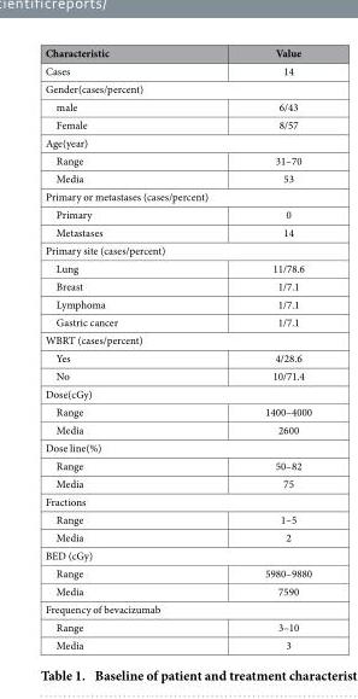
<table><thead><tr><td>Characteristic</td><td>Value</td></tr></thead><tbody><tr><td>Cases</td><td>14</td></tr><tr><td colspan="2">Gender(cases/percent)</td></tr><tr><td>male</td><td>6/43</td></tr><tr><td>Female</td><td>8/57</td></tr><tr><td colspan="2">Age(year)</td></tr><tr><td>Range</td><td>31–70</td></tr><tr><td>Media</td><td>53</td></tr><tr><td colspan="2">Primary or metastases (cases/percent)</td></tr><tr><td>Primary</td><td>0</td></tr><tr><td>Metastases</td><td>14</td></tr><tr><td colspan="2">Primary site (cases/percent)</td></tr><tr><td>Lung</td><td>11/78.6</td></tr><tr><td>Breast</td><td>1/7.1</td></tr><tr><td>Lymphoma</td><td>1/7.1</td></tr><tr><td>Gastric cancer</td><td>1/7.1</td></tr><tr><td colspan="2">WBRT (cases/percent)</td></tr><tr><td>Yes</td><td>4/28.6</td></tr><tr><td>No</td><td>10/71.4</td></tr><tr><td colspan="2">Dose(cGy)</td></tr><tr><td>Range</td><td>1400–4000</td></tr><tr><td>Media</td><td>2600</td></tr><tr><td colspan="2">Dose line(%)</td></tr><tr><td>Range</td><td>50–82</td></tr><tr><td>Media</td><td>75</td></tr><tr><td colspan="2">Fractions</td></tr><tr><td>Range</td><td>1–5</td></tr><tr><td>Media</td><td>2</td></tr><tr><td colspan="2">BED (cGy)</td></tr><tr><td>Range</td><td>5980–9880</td></tr><tr><td>Media</td><td>7590</td></tr><tr><td colspan="2">Frequency of bevacizumab</td></tr><tr><td>Range</td><td>3–10</td></tr><tr><td>Media</td><td>3</td></tr></tbody></table>